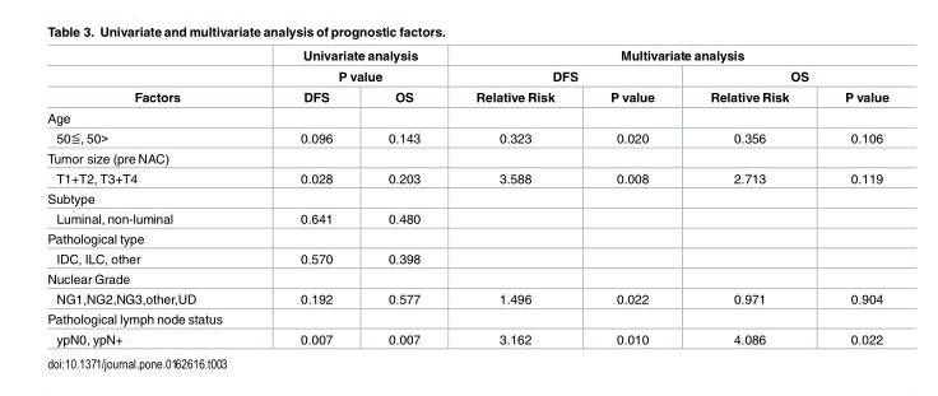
<table><thead><tr><td rowspan="3">Factors</td><td rowspan="2" colspan="2">Univariate analysis P value</td><td colspan="4">Multivariate analysis</td></tr><tr><td colspan="2">DFS</td><td colspan="2">OS</td></tr><tr><td>DFS</td><td>OS</td><td>Relative Risk</td><td>P value</td><td>Relative Risk</td><td>P value</td></tr></thead><tbody><tr><td colspan="7">Age</td></tr><tr><td>50≦, 50&gt;</td><td>0.096</td><td>0.143</td><td>0.323</td><td>0.020</td><td>0.356</td><td>0.106</td></tr><tr><td colspan="7">Tumor size (pre NAC)</td></tr><tr><td>T1+T2, T3+T4</td><td>0.028</td><td>0.203</td><td>3.588</td><td>0.008</td><td>2.713</td><td>0.119</td></tr><tr><td colspan="7">Subtype</td></tr><tr><td>Luminal, non-luminal</td><td>0.641</td><td>0.480</td><td></td><td></td><td></td><td></td></tr><tr><td colspan="7">Pathological type</td></tr><tr><td>IDC, ILC, other</td><td>0.570</td><td>0.398</td><td></td><td></td><td></td><td></td></tr><tr><td colspan="7">Nuclear Grade</td></tr><tr><td>NG1,NG2,NG3,other,UD</td><td>0.192</td><td>0.577</td><td>1.496</td><td>0.022</td><td>0.971</td><td>0.904</td></tr><tr><td colspan="7">Pathological lymph node status</td></tr><tr><td>ypN0, ypN+</td><td>0.007</td><td>0.007</td><td>3.162</td><td>0.010</td><td>4.086</td><td>0.022</td></tr></tbody></table>